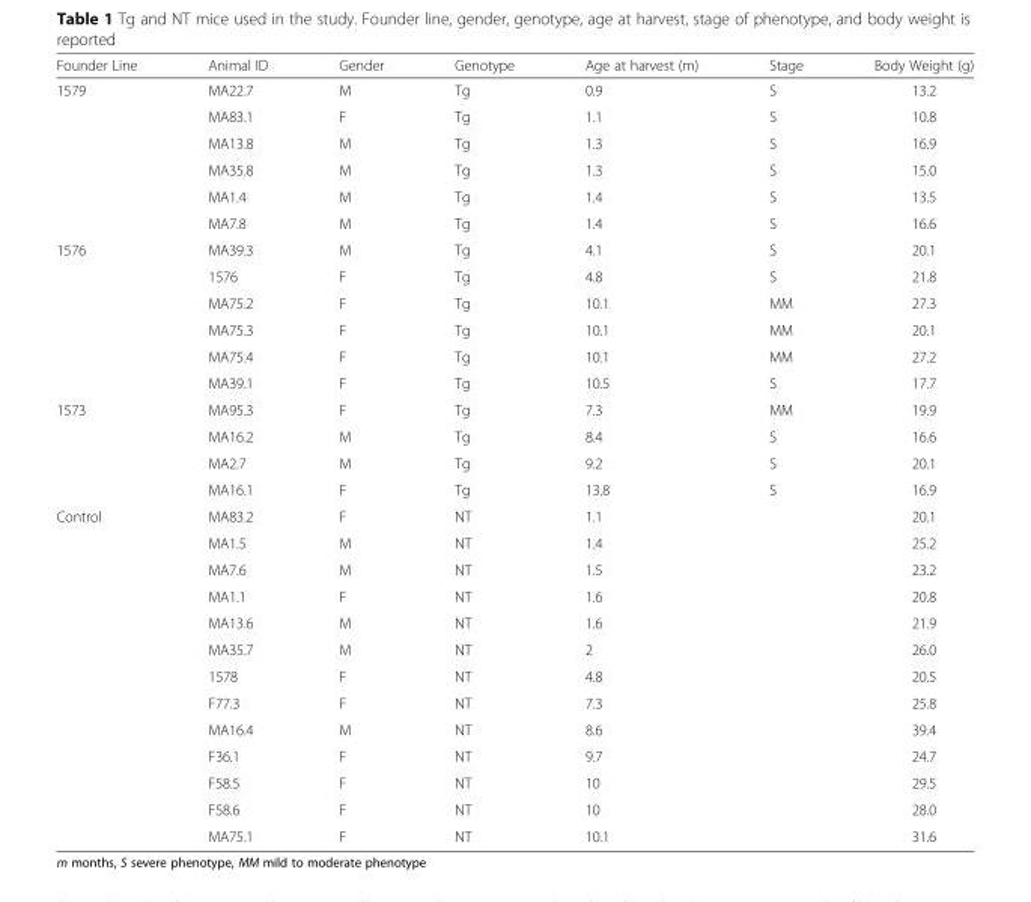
<table><thead><tr><td>Founder Line</td><td>Animal ID</td><td>Gender</td><td>Genotype</td><td>Age at harvest (m)</td><td>Stage</td><td>Body Weight (g)</td></tr></thead><tbody><tr><td rowspan="6">1579</td><td>MA22.7</td><td>M</td><td>Tg</td><td>0.9</td><td>S</td><td>13.2</td></tr><tr><td>MA83.1</td><td>F</td><td>Tg</td><td>1.1</td><td>S</td><td>10.8</td></tr><tr><td>MA13.8</td><td>M</td><td>Tg</td><td>1.3</td><td>S</td><td>16.9</td></tr><tr><td>MA35.8</td><td>M</td><td>Tg</td><td>1.3</td><td>S</td><td>15.0</td></tr><tr><td>MA1.4</td><td>M</td><td>Tg</td><td>1.4</td><td>S</td><td>13.5</td></tr><tr><td>MA7.8</td><td>M</td><td>Tg</td><td>1.4</td><td>S</td><td>16.6</td></tr><tr><td rowspan="6">1576</td><td>MA39.3</td><td>M</td><td>Tg</td><td>4.1</td><td>S</td><td>20.1</td></tr><tr><td>1576</td><td>F</td><td>Tg</td><td>4.8</td><td>S</td><td>21.8</td></tr><tr><td>MA75.2</td><td>F</td><td>Tg</td><td>10.1</td><td>MM</td><td>27.3</td></tr><tr><td>MA75.3</td><td>F</td><td>Tg</td><td>10.1</td><td>MM</td><td>20.1</td></tr><tr><td>MA75.4</td><td>F</td><td>Tg</td><td>10.1</td><td>MM</td><td>27.2</td></tr><tr><td>MA39.1</td><td>F</td><td>Tg</td><td>10.5</td><td>S</td><td>17.7</td></tr><tr><td rowspan="4">1573</td><td>MA95.3</td><td>F</td><td>Tg</td><td>7.3</td><td>MM</td><td>19.9</td></tr><tr><td>MA16.2</td><td>M</td><td>Tg</td><td>8.4</td><td>S</td><td>16.6</td></tr><tr><td>MA2.7</td><td>M</td><td>Tg</td><td>9.2</td><td>S</td><td>20.1</td></tr><tr><td>MA16.1</td><td>F</td><td>Tg</td><td>13.8</td><td>S</td><td>16.9</td></tr><tr><td rowspan="13">Control</td><td>MA83.2</td><td>F</td><td>NT</td><td>1.1</td><td></td><td>20.1</td></tr><tr><td>MA1.5</td><td>M</td><td>NT</td><td>1.4</td><td></td><td>25.2</td></tr><tr><td>MA7.6</td><td>M</td><td>NT</td><td>1.5</td><td></td><td>23.2</td></tr><tr><td>MA1.1</td><td>F</td><td>NT</td><td>1.6</td><td></td><td>20.8</td></tr><tr><td>MA13.6</td><td>M</td><td>NT</td><td>1.6</td><td></td><td>21.9</td></tr><tr><td>MA35.7</td><td>M</td><td>NT</td><td>2</td><td></td><td>26.0</td></tr><tr><td>1578</td><td>F</td><td>NT</td><td>4.8</td><td></td><td>20.5</td></tr><tr><td>F77.3</td><td>F</td><td>NT</td><td>7.3</td><td></td><td>25.8</td></tr><tr><td>MA16.4</td><td>M</td><td>NT</td><td>8.6</td><td></td><td>39.4</td></tr><tr><td>F36.1</td><td>F</td><td>NT</td><td>9.7</td><td></td><td>24.7</td></tr><tr><td>F58.5</td><td>F</td><td>NT</td><td>10</td><td></td><td>29.5</td></tr><tr><td>F58.6</td><td>F</td><td>NT</td><td>10</td><td></td><td>28.0</td></tr><tr><td>MA75.1</td><td>F</td><td>NT</td><td>10.1</td><td></td><td>31.6</td></tr></tbody></table>